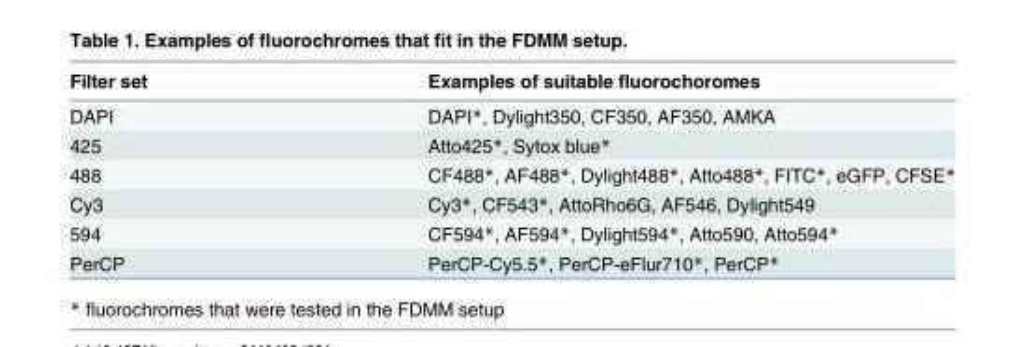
<table><thead><tr><td>Filter set</td><td>Examples of suitable fluorochoromes</td></tr></thead><tbody><tr><td>DAPI</td><td>DAPI*, Dylight350, CF350, AF350, AMKA</td></tr><tr><td>425</td><td>Atto425*, Sytox blue*</td></tr><tr><td>488</td><td>CF488*, AF488*, Dylight488*, Atto488*, FITC*, eGFP, CFSE*</td></tr><tr><td>Cy3</td><td>Cy3*, CF543*, AttoRho6G, AF546, Dylight549</td></tr><tr><td>594</td><td>CF594*, AF594*, Dylight594*, Atto590, Atto594*</td></tr><tr><td>PerCP</td><td>PerCP-Cy5.5*, PerCP-eFlur710*, PerCP*</td></tr></tbody></table>